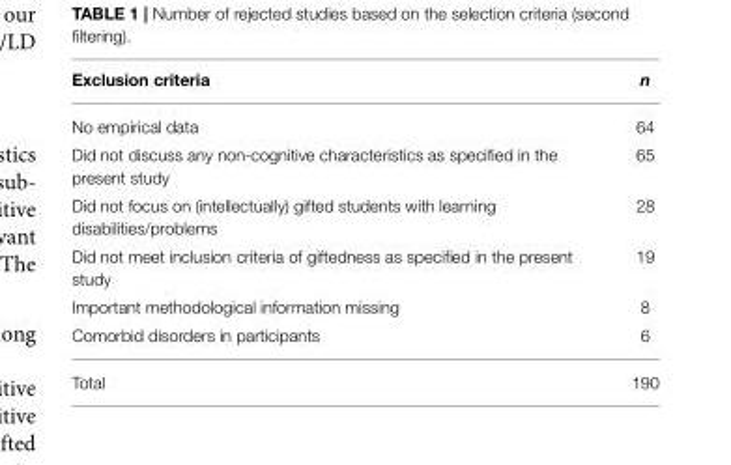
<table><thead><tr><td>Exclusion criteria</td><td>n</td></tr></thead><tbody><tr><td>No empirical data</td><td>64</td></tr><tr><td>Did not discuss any non-cognitive characteristics as specified in the present study</td><td>65</td></tr><tr><td>Did not focus on (intellectually) gifted students with learning disabilities/problems</td><td>28</td></tr><tr><td>Did not meet inclusion criteria of giftedness as specified in the present study</td><td>19</td></tr><tr><td>Important methodological information missing</td><td>8</td></tr><tr><td>Comorbid disorders in participants</td><td>6</td></tr><tr><td>Total</td><td>190</td></tr></tbody></table>